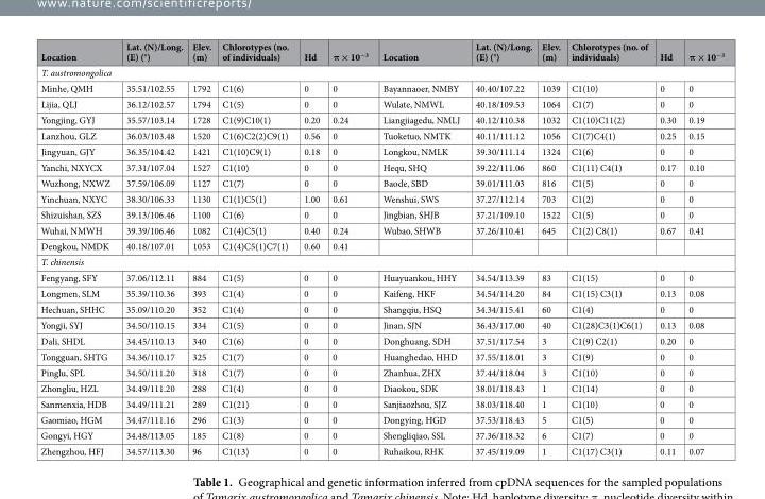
<table><thead><tr><td>Location</td><td>Lat. (N)/Long. (E) (°)</td><td>Elev. (m)</td><td>Chlorotypes (no. of individuals)</td><td>Hd</td><td>π × 10<sup>−3</sup></td><td>Location</td><td>Lat. (N)/Long. (E) (°)</td><td>Elev. (m)</td><td>Chlorotypes (no. of individuals)</td><td>Hd</td><td>π × 10<sup>−3</sup></td></tr></thead><tbody><tr><td colspan="12">T. austromongolica</td></tr><tr><td>Minhe, QMH</td><td>35.51/102.55</td><td>1792</td><td>C1(6)</td><td>0</td><td>0</td><td>Bayannaoer, NMBY</td><td>40.40/107.22</td><td>1039</td><td>C1(10)</td><td>0</td><td>0</td></tr><tr><td>Lijia, QLJ</td><td>36.12/102.57</td><td>1794</td><td>C1(5)</td><td>0</td><td>0</td><td>Wulate, NMWL</td><td>40.18/109.53</td><td>1064</td><td>C1(7)</td><td>0</td><td>0</td></tr><tr><td>Yongjing, GYJ</td><td>35.57/103.14</td><td>1728</td><td>C1(9)C10(1)</td><td>0.20</td><td>0.24</td><td>Liangjiagedu, NMLJ</td><td>40.12/110.38</td><td>1032</td><td>C1(10)C11(2)</td><td>0.30</td><td>0.19</td></tr><tr><td>Lanzhou, GLZ</td><td>36.03/103.48</td><td>1520</td><td>C1(6)C2(2)C9(1)</td><td>0.56</td><td>0</td><td>Tuoketuo, NMTK</td><td>40.11/111.12</td><td>1056</td><td>C1(7)C4(1)</td><td>0.25</td><td>0.15</td></tr><tr><td>Jingyuan, GJY</td><td>36.35/104.42</td><td>1421</td><td>C1(10)C9(1)</td><td>0.18</td><td>0</td><td>Longkou, NMLK</td><td>39.30/111.14</td><td>1324</td><td>C1(6)</td><td>0</td><td>0</td></tr><tr><td>Yanchi, NXYCX</td><td>37.31/107.04</td><td>1527</td><td>C1(10)</td><td>0</td><td>0</td><td>Hequ, SHQ</td><td>39.22/111.06</td><td>860</td><td>C1(11) C4(1)</td><td>0.17</td><td>0.10</td></tr><tr><td>Wuzhong, NXWZ</td><td>37.59/106.09</td><td>1127</td><td>C1(7)</td><td>0</td><td>0</td><td>Baode, SBD</td><td>39.01/111.03</td><td>816</td><td>C1(5)</td><td>0</td><td>0</td></tr><tr><td>Yinchuan, NXYC</td><td>38.30/106.33</td><td>1130</td><td>C1(1)C5(1)</td><td>1.00</td><td>0.61</td><td>Wenshui, SWS</td><td>37.27/112.14</td><td>703</td><td>C1(2)</td><td>0</td><td>0</td></tr><tr><td>Shizuishan, SZS</td><td>39.13/106.46</td><td>1100</td><td>C1(6)</td><td>0</td><td>0</td><td>Jingbian, SHJB</td><td>37.21/109.10</td><td>1522</td><td>C1(5)</td><td>0</td><td>0</td></tr><tr><td>Wuhai, NMWH</td><td>39.39/106.46</td><td>1082</td><td>C1(4)C5(1)</td><td>0.40</td><td>0.24</td><td>Wubao, SHWB</td><td>37.26/110.41</td><td>645</td><td>C1(2) C8(1)</td><td>0.67</td><td>0.41</td></tr><tr><td>Dengkou, NMDK</td><td>40.18/107.01</td><td>1053</td><td>C1(4)C5(1)C7(1)</td><td>0.60</td><td>0.41</td><td></td><td></td><td></td><td></td><td></td><td></td></tr><tr><td colspan="12">T. chinensis</td></tr><tr><td>Fengyang, SFY</td><td>37.06/112.11</td><td>884</td><td>C1(5)</td><td>0</td><td>0</td><td>Huayuankou, HHY</td><td>34.54/113.39</td><td>83</td><td>C1(15)</td><td>0</td><td>0</td></tr><tr><td>Longmen, SLM</td><td>35.39/110.36</td><td>393</td><td>C1(4)</td><td>0</td><td>0</td><td>Kaifeng, HKF</td><td>34.54/114.20</td><td>84</td><td>C1(15) C3(1)</td><td>0.13</td><td>0.08</td></tr><tr><td>Hechuan, SHHC</td><td>35.09/110.20</td><td>352</td><td>C1(4)</td><td>0</td><td>0</td><td>Shangqiu, HSQ</td><td>34.34/115.41</td><td>60</td><td>C1(4)</td><td>0</td><td>0</td></tr><tr><td>Yongji, SYJ</td><td>34.50/110.15</td><td>334</td><td>C1(5)</td><td>0</td><td>0</td><td>Jinan, SJN</td><td>36.43/117.00</td><td>40</td><td>C1(28)C3(1)C6(1)</td><td>0.13</td><td>0.08</td></tr><tr><td>Dali, SHDL</td><td>34.45/110.13</td><td>340</td><td>C1(6)</td><td>0</td><td>0</td><td>Donghuang, SDH</td><td>37.51/117.54</td><td>3</td><td>C1(9) C2(1)</td><td>0.20</td><td>0</td></tr><tr><td>Tongguan, SHTG</td><td>34.36/110.17</td><td>325</td><td>C1(7)</td><td>0</td><td>0</td><td>Huanghedao, HHD</td><td>37.55/118.01</td><td>3</td><td>C1(9)</td><td>0</td><td>0</td></tr><tr><td>Pinglu, SPL</td><td>34.50/111.20</td><td>318</td><td>C1(7)</td><td>0</td><td>0</td><td>Zhanhua, ZHX</td><td>37.44/118.04</td><td>3</td><td>C1(10)</td><td>0</td><td>0</td></tr><tr><td>Zhongliu, HZL</td><td>34.49/111.20</td><td>288</td><td>C1(4)</td><td>0</td><td>0</td><td>Diaokou, SDK</td><td>38.01/118.43</td><td>1</td><td>C1(14)</td><td>0</td><td>0</td></tr><tr><td>Sanmenxia, HDB</td><td>34.49/111.21</td><td>289</td><td>C1(21)</td><td>0</td><td>0</td><td>Sanjiaozhou, SJZ</td><td>38.03/118.40</td><td>1</td><td>C1(10)</td><td>0</td><td>0</td></tr><tr><td>Gaomiao, HGM</td><td>34.47/111.16</td><td>296</td><td>C1(3)</td><td>0</td><td>0</td><td>Dongying, HGD</td><td>37.53/118.43</td><td>5</td><td>C1(5)</td><td>0</td><td>0</td></tr><tr><td>Gongyi, HGY</td><td>34.48/113.05</td><td>185</td><td>C1(8)</td><td>0</td><td>0</td><td>Shengliqiao, SSL</td><td>37.36/118.32</td><td>6</td><td>C1(7)</td><td>0</td><td>0</td></tr><tr><td>Zhengzhou, HFJ</td><td>34.57/113.30</td><td>96</td><td>C1(13)</td><td>0</td><td>0</td><td>Ruhaikou, RHK</td><td>37.45/119.09</td><td>1</td><td>C1(17) C3(1)</td><td>0.11</td><td>0.07</td></tr></tbody></table>